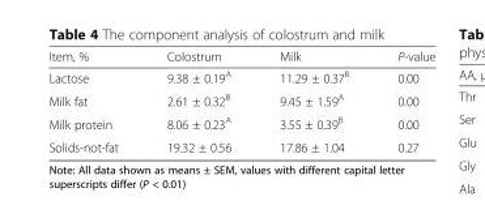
<table><thead><tr><td>Item, %</td><td>Colostrum</td><td>Milk</td><td>P-value</td></tr></thead><tbody><tr><td>Lactose</td><td>9.38 ± 0.19<sup>A</sup></td><td>11.29 ± 0.37<sup>B</sup></td><td>0.00</td></tr><tr><td>Milk fat</td><td>2.61 ± 0.32<sup>B</sup></td><td>9.45 ± 1.59<sup>A</sup></td><td>0.00</td></tr><tr><td>Milk protein</td><td>8.06 ± 0.23<sup>A</sup></td><td>3.55 ± 0.39<sup>B</sup></td><td>0.00</td></tr><tr><td>Solids-not-fat</td><td>19.32 ± 0.56</td><td>17.86 ± 1.04</td><td>0.27</td></tr></tbody></table>